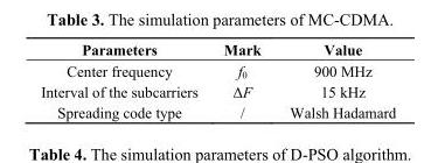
<table><thead><tr><td>Parameters</td><td>Mark</td><td>Value</td></tr></thead><tbody><tr><td>Center frequency</td><td>f<sub>0</sub></td><td>900 MHz</td></tr><tr><td>Interval of the subcarriers</td><td>ΔF</td><td>15 kHz</td></tr><tr><td>Spreading code type</td><td>/</td><td>Walsh Hadamard</td></tr></tbody></table>